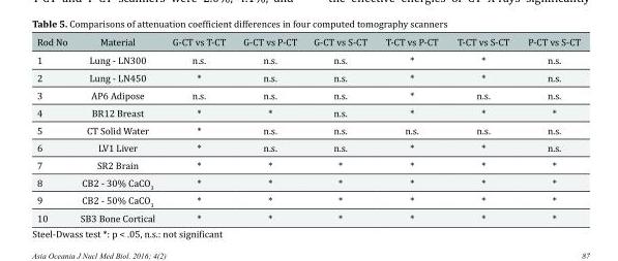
<table><thead><tr><td>Rod No</td><td>Material</td><td>G-CT vs T-CT</td><td>G-CT vs P-CT</td><td>G-CT vs S-CT</td><td>T-CT vs P-CT</td><td>T-CT vs S-CT</td><td>P-CT vs S-CT</td></tr></thead><tbody><tr><td>1</td><td>Lung - LN300</td><td>n.s.</td><td>n.s.</td><td>n.s.</td><td>*</td><td>*</td><td>n.s.</td></tr><tr><td>2</td><td>Lung - LN450</td><td>*</td><td>n.s.</td><td>n.s.</td><td>*</td><td>*</td><td>n.s.</td></tr><tr><td>3</td><td>AP6 Adipose</td><td>n.s.</td><td>n.s.</td><td>n.s.</td><td>*</td><td>n.s.</td><td>n.s.</td></tr><tr><td>4</td><td>BR12 Breast</td><td>*</td><td>*</td><td>n.s.</td><td>*</td><td>*</td><td>*</td></tr><tr><td>5</td><td>CT Solid Water</td><td>*</td><td>n.s.</td><td>n.s.</td><td>n.s.</td><td>n.s.</td><td>n.s.</td></tr><tr><td>6</td><td>LV1 Liver</td><td>*</td><td>n.s.</td><td>n.s.</td><td>*</td><td>*</td><td>n.s.</td></tr><tr><td>7</td><td>SR2 Brain</td><td>*</td><td>*</td><td>*</td><td>*</td><td>*</td><td>*</td></tr><tr><td>8</td><td>CB2 - 30% CaCO<sub>3</sub></td><td>*</td><td>*</td><td>*</td><td>*</td><td>*</td><td>*</td></tr><tr><td>9</td><td>CB2 - 50% CaCO<sub>3</sub></td><td>*</td><td>*</td><td>*</td><td>*</td><td>*</td><td>*</td></tr><tr><td>10</td><td>SB3 Bone Cortical</td><td>*</td><td>*</td><td>*</td><td>*</td><td>*</td><td>*</td></tr></tbody></table>